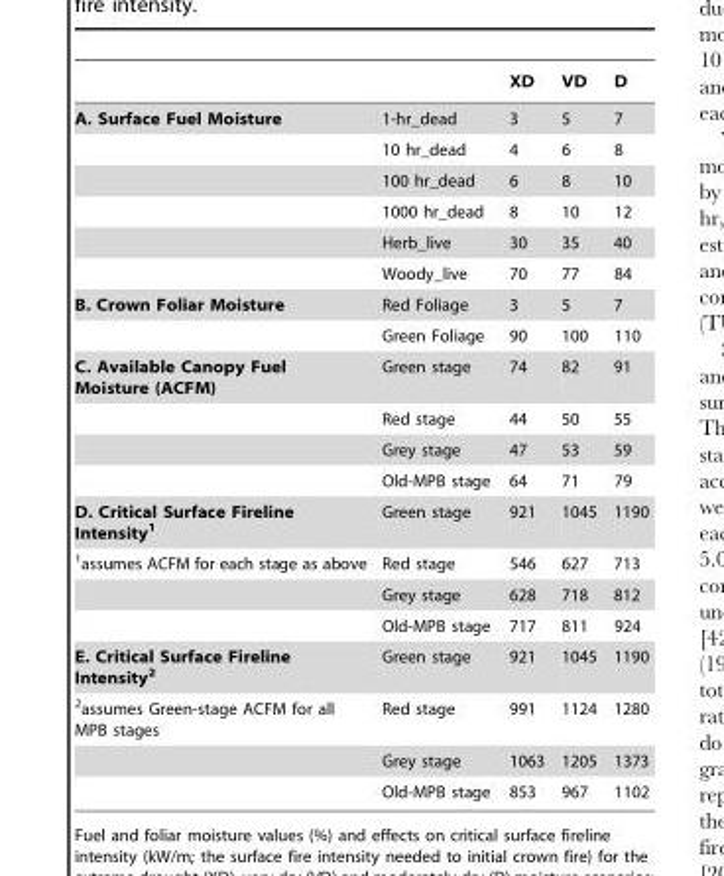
<table><thead><tr><td></td><td></td><td>XD</td><td>VD</td><td>D</td></tr></thead><tbody><tr><td rowspan="6">A. Surface Fuel Moisture</td><td>1-hr_dead</td><td>3</td><td>5</td><td>7</td></tr><tr><td>10 hr_dead</td><td>4</td><td>6</td><td>8</td></tr><tr><td>100 hr_dead</td><td>6</td><td>8</td><td>10</td></tr><tr><td>1000 hr_dead</td><td>8</td><td>10</td><td>12</td></tr><tr><td>Herb_live</td><td>30</td><td>35</td><td>40</td></tr><tr><td>Woody_live</td><td>70</td><td>77</td><td>84</td></tr><tr><td rowspan="2">B. Crown Foliar Moisture</td><td>Red Foliage</td><td>3</td><td>5</td><td>7</td></tr><tr><td>Green Foliage</td><td>90</td><td>100</td><td>110</td></tr><tr><td rowspan="4">C. Available Canopy Fuel Moisture (ACFM)</td><td>Green stage</td><td>74</td><td>82</td><td>91</td></tr><tr><td>Red stage</td><td>44</td><td>50</td><td>55</td></tr><tr><td>Grey stage</td><td>47</td><td>53</td><td>59</td></tr><tr><td>Old-MPB stage</td><td>64</td><td>71</td><td>79</td></tr><tr><td>D. Critical Surface Fireline Intensity<sup>1</sup></td><td>Green stage</td><td>921</td><td>1045</td><td>1190</td></tr><tr><td rowspan="3"><sup>1</sup>assumes ACFM for each stage as above</td><td>Red stage</td><td>546</td><td>627</td><td>713</td></tr><tr><td>Grey stage</td><td>628</td><td>718</td><td>812</td></tr><tr><td>Old-MPB stage</td><td>717</td><td>811</td><td>924</td></tr><tr><td>E. Critical Surface Fireline Intensity<sup>2</sup></td><td>Green stage</td><td>921</td><td>1045</td><td>1190</td></tr><tr><td rowspan="3"><sup>2</sup>assumes Green-stage ACFM for all MPB stages</td><td>Red stage</td><td>991</td><td>1124</td><td>1280</td></tr><tr><td>Grey stage</td><td>1063</td><td>1205</td><td>1373</td></tr><tr><td>Old-MPB stage</td><td>853</td><td>967</td><td>1102</td></tr></tbody></table>